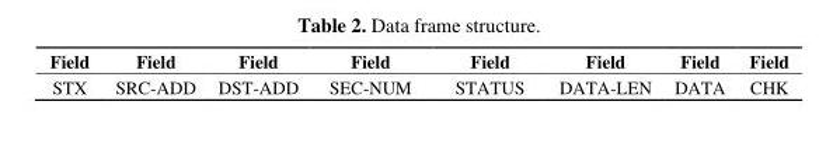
<table><thead><tr><td>Field</td><td>Field</td><td>Field</td><td>Field</td><td>Field</td><td>Field</td><td>Field</td><td>Field</td></tr></thead><tbody><tr><td>STX</td><td>SRC-ADD</td><td>DST-ADD</td><td>SEC-NUM</td><td>STATUS</td><td>DATA-LEN</td><td>DATA</td><td>CHK</td></tr></tbody></table>